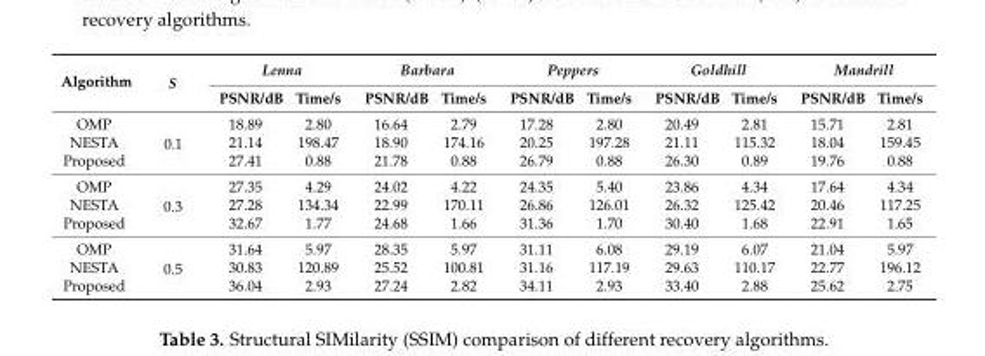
<table><thead><tr><td rowspan="2">Algorithm</td><td rowspan="2">S</td><td colspan="2">Lenna</td><td colspan="2">Barbara</td><td colspan="2">Peppers</td><td colspan="2">Goldhill</td><td colspan="2">Mandrill</td></tr><tr><td>PSNR/dB</td><td>Time/s</td><td>PSNR/dB</td><td>Time/s</td><td>PSNR/dB</td><td>Time/s</td><td>PSNR/dB</td><td>Time/s</td><td>PSNR/dB</td><td>Time/s</td></tr></thead><tbody><tr><td>OMP</td><td rowspan="3">0.1</td><td>18.89</td><td>2.80</td><td>16.64</td><td>2.79</td><td>17.28</td><td>2.80</td><td>20.49</td><td>2.81</td><td>15.71</td><td>2.81</td></tr><tr><td>NESTA</td><td>21.14</td><td>198.47</td><td>18.90</td><td>174.16</td><td>20.25</td><td>197.28</td><td>21.11</td><td>115.32</td><td>18.04</td><td>159.45</td></tr><tr><td>Proposed</td><td>27.41</td><td>0.88</td><td>21.78</td><td>0.88</td><td>26.79</td><td>0.88</td><td>26.30</td><td>0.89</td><td>19.76</td><td>0.88</td></tr><tr><td>OMP</td><td rowspan="3">0.3</td><td>27.35</td><td>4.29</td><td>24.02</td><td>4.22</td><td>24.35</td><td>5.40</td><td>23.86</td><td>4.34</td><td>17.64</td><td>4.34</td></tr><tr><td>NESTA</td><td>27.28</td><td>134.34</td><td>22.99</td><td>170.11</td><td>26.86</td><td>126.01</td><td>26.32</td><td>125.42</td><td>20.46</td><td>117.25</td></tr><tr><td>Proposed</td><td>32.67</td><td>1.77</td><td>24.68</td><td>1.66</td><td>31.36</td><td>1.70</td><td>30.40</td><td>1.68</td><td>22.91</td><td>1.65</td></tr><tr><td>OMP</td><td rowspan="3">0.5</td><td>31.64</td><td>5.97</td><td>28.35</td><td>5.97</td><td>31.11</td><td>6.08</td><td>29.19</td><td>6.07</td><td>21.04</td><td>5.97</td></tr><tr><td>NESTA</td><td>30.83</td><td>120.89</td><td>25.52</td><td>100.81</td><td>31.16</td><td>117.19</td><td>29.63</td><td>110.17</td><td>22.77</td><td>196.12</td></tr><tr><td>Proposed</td><td>36.04</td><td>2.93</td><td>27.24</td><td>2.82</td><td>34.11</td><td>2.93</td><td>33.40</td><td>2.88</td><td>25.62</td><td>2.75</td></tr></tbody></table>